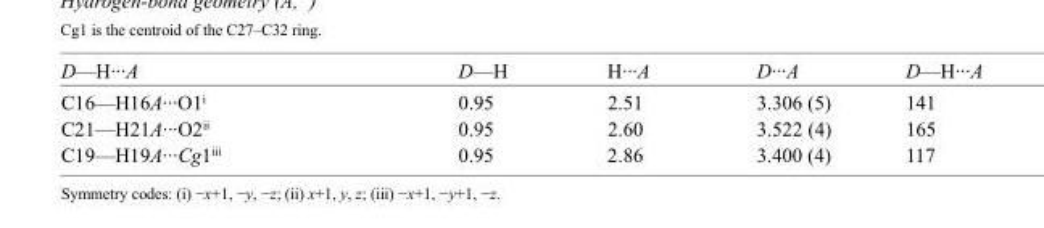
<table><tbody><tr><td>D—H···A</td><td>D—H</td><td>H···A</td><td>D···A</td><td>D—H···A</td></tr><tr><td>C16—H16A···O1<sup>i</sup></td><td>0.95</td><td>2.51</td><td>3.306 (5)</td><td>141</td></tr><tr><td>C21—H21A···O2<sup>ii</sup></td><td>0.95</td><td>2.60</td><td>3.522 (4)</td><td>165</td></tr><tr><td>C19—H19A···Cg1<sup>iii</sup></td><td>0.95</td><td>2.86</td><td>3.400 (4)</td><td>117</td></tr></tbody></table>